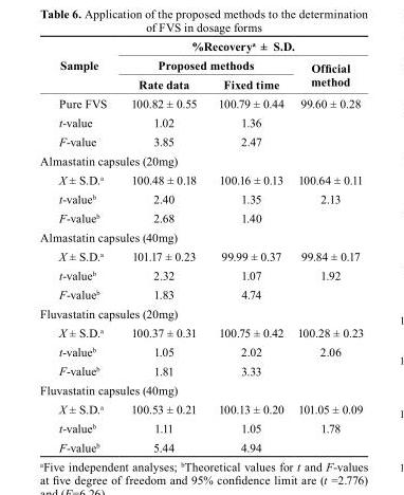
<table><thead><tr><td rowspan="3">sample</td><td colspan="3">%recovery<sup>a</sup> ± s.D.</td></tr><tr><td colspan="2">Proposed methods</td><td rowspan="2">official method</td></tr><tr><td>rate data</td><td>Fixed time</td></tr></thead><tbody><tr><td>Pure FVS</td><td>100.82 ± 0.55</td><td>100.79 ± 0.44</td><td>99.60 ± 0.28</td></tr><tr><td>t-value</td><td>1.02</td><td>1.36</td><td></td></tr><tr><td>F-value</td><td>3.85</td><td>2.47</td><td></td></tr><tr><td colspan="4">Almastatin capsules (20mg)</td></tr><tr><td>X ± S.D.<sup>a</sup></td><td>100.48 ± 0.18</td><td>100.16 ± 0.13</td><td>100.64 ± 0.11</td></tr><tr><td>t-value<sup>b</sup></td><td>2.40</td><td>1.35</td><td>2.13</td></tr><tr><td>F-value<sup>b</sup></td><td>2.68</td><td>1.40</td><td></td></tr><tr><td colspan="4">Almastatin capsules (40mg)</td></tr><tr><td>X ± S.D.<sup>a</sup></td><td>101.17 ± 0.23</td><td>99.99 ± 0.37</td><td>99.84 ± 0.17</td></tr><tr><td>t-value<sup>b</sup></td><td>2.32</td><td>1.07</td><td>1.92</td></tr><tr><td>F-value<sup>b</sup></td><td>1.83</td><td>4.74</td><td></td></tr><tr><td colspan="4">Fluvastatin capsules (20mg)</td></tr><tr><td>X ± S.D.<sup>a</sup></td><td>100.37 ± 0.31</td><td>100.75 ± 0.42</td><td>100.28 ± 0.23</td></tr><tr><td>t-value<sup>b</sup></td><td>1.05</td><td>2.02</td><td>2.06</td></tr><tr><td>F-value<sup>b</sup></td><td>1.81</td><td>3.33</td><td></td></tr><tr><td colspan="4">Fluvastatin capsules (40mg)</td></tr><tr><td>X ± S.D.<sup>a</sup></td><td>100.53 ± 0.21</td><td>100.13 ± 0.20</td><td>101.05 ± 0.09</td></tr><tr><td>t-value<sup>b</sup></td><td>1.11</td><td>1.05</td><td>1.78</td></tr><tr><td>F-value<sup>b</sup></td><td>5.44</td><td>4.94</td><td></td></tr></tbody></table>